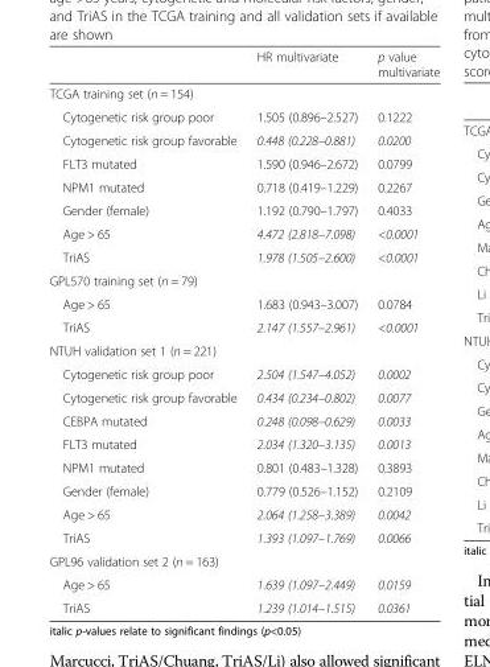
<table><thead><tr><td></td><td>HR multivariate</td><td>p value multivariate</td></tr></thead><tbody><tr><td colspan="3">TCGA training set (n = 154)</td></tr><tr><td>Cytogenetic risk group poor</td><td>1.505 (0.896–2.527)</td><td>0.1222</td></tr><tr><td>Cytogenetic risk group favorable</td><td>0.448 (0.228–0.881)</td><td>0.0200</td></tr><tr><td>FLT3 mutated</td><td>1.590 (0.946–2.672)</td><td>0.0799</td></tr><tr><td>NPM1 mutated</td><td>0.718 (0.419–1.229)</td><td>0.2267</td></tr><tr><td>Gender (female)</td><td>1.192 (0.790–1.797)</td><td>0.4033</td></tr><tr><td>Age &gt; 65</td><td>4.472 (2.818–7.098)</td><td>&lt;0.0001</td></tr><tr><td>TriAS</td><td>1.978 (1.505–2.600)</td><td>&lt;0.0001</td></tr><tr><td colspan="3">GPL570 training set (n = 79)</td></tr><tr><td>Age &gt; 65</td><td>1.683 (0.943–3.007)</td><td>0.0784</td></tr><tr><td>TriAS</td><td>2.147 (1.557–2.961)</td><td>&lt;0.0001</td></tr><tr><td colspan="3">NTUH validation set 1 (n = 221)</td></tr><tr><td>Cytogenetic risk group poor</td><td>2.504 (1.547–4.052)</td><td>0.0002</td></tr><tr><td>Cytogenetic risk group favorable</td><td>0.434 (0.234–0.802)</td><td>0.0077</td></tr><tr><td>CEBPA mutated</td><td>0.248 (0.098–0.629)</td><td>0.0033</td></tr><tr><td>FLT3 mutated</td><td>2.034 (1.320–3.135)</td><td>0.0013</td></tr><tr><td>NPM1 mutated</td><td>0.801 (0.483–1.328)</td><td>0.3893</td></tr><tr><td>Gender (female)</td><td>0.779 (0.526–1.152)</td><td>0.2109</td></tr><tr><td>Age &gt; 65</td><td>2.064 (1.258–3.389)</td><td>0.0042</td></tr><tr><td>TriAS</td><td>1.393 (1.097–1.769)</td><td>0.0066</td></tr><tr><td colspan="3">GPL96 validation set 2 (n = 163)</td></tr><tr><td>Age &gt; 65</td><td>1.639 (1.097–2.449)</td><td>0.0159</td></tr><tr><td>TriAS</td><td>1.239 (1.014–1.515)</td><td>0.0361</td></tr></tbody></table>